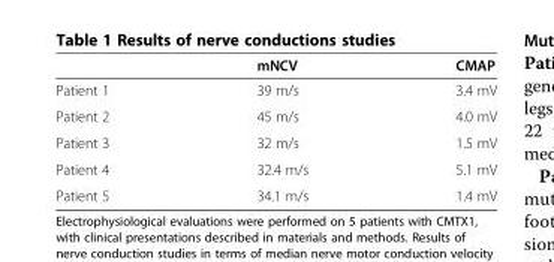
<table><thead><tr><td></td><td>mNCV</td><td>CMAP</td></tr></thead><tbody><tr><td>Patient 1</td><td>39 m/s</td><td>3.4 mV</td></tr><tr><td>Patient 2</td><td>45 m/s</td><td>4.0 mV</td></tr><tr><td>Patient 3</td><td>32 m/s</td><td>1.5 mV</td></tr><tr><td>Patient 4</td><td>32.4 m/s</td><td>5.1 mV</td></tr><tr><td>Patient 5</td><td>34.1 m/s</td><td>1.4 mV</td></tr></tbody></table>